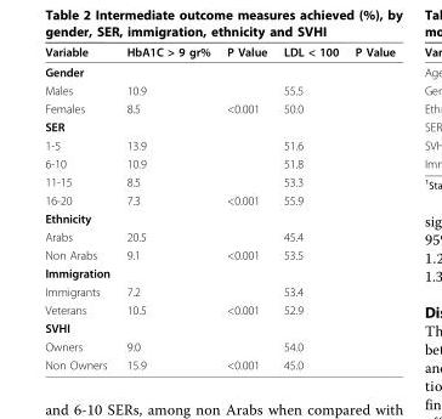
<table><thead><tr><td>Variable</td><td>HbA1C &gt; 9 gr%</td><td>P Value</td><td>LDL &lt; 100</td><td>P Value</td></tr></thead><tbody><tr><td colspan="5">Gender</td></tr><tr><td>Males</td><td>10.9</td><td></td><td>55.5</td><td></td></tr><tr><td>Females</td><td>8.5</td><td>&lt;0.001</td><td>50.0</td><td></td></tr><tr><td colspan="5">SER</td></tr><tr><td>1-5</td><td>13.9</td><td></td><td>51.6</td><td></td></tr><tr><td>6-10</td><td>10.9</td><td></td><td>51.8</td><td></td></tr><tr><td>11-15</td><td>8.5</td><td></td><td>53.3</td><td></td></tr><tr><td>16-20</td><td>7.3</td><td>&lt;0.001</td><td>55.9</td><td></td></tr><tr><td colspan="5">Ethnicity</td></tr><tr><td>Arabs</td><td>20.5</td><td></td><td>45.4</td><td></td></tr><tr><td>Non Arabs</td><td>9.1</td><td>&lt;0.001</td><td>53.5</td><td></td></tr><tr><td colspan="5">Immigration</td></tr><tr><td>Immigrants</td><td>7.2</td><td></td><td>53.4</td><td></td></tr><tr><td>Veterans</td><td>10.5</td><td>&lt;0.001</td><td>52.9</td><td></td></tr><tr><td colspan="5">SVHI</td></tr><tr><td>Owners</td><td>9.0</td><td></td><td>54.0</td><td></td></tr><tr><td>Non Owners</td><td>15.9</td><td>&lt;0.001</td><td>45.0</td><td></td></tr></tbody></table>